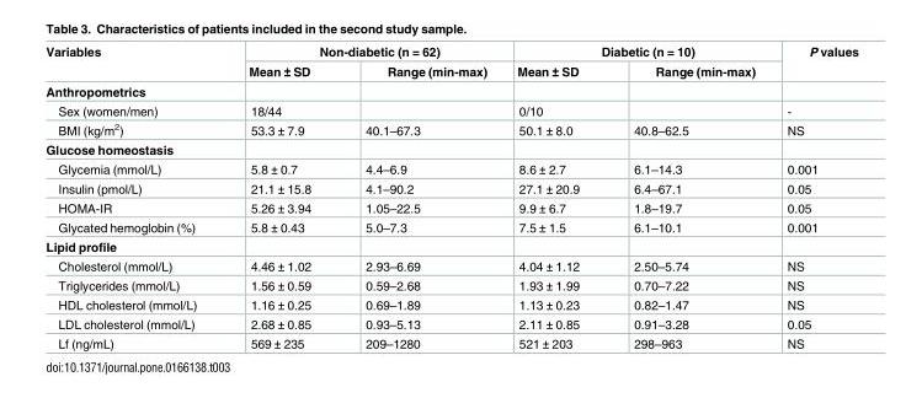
<table><thead><tr><td rowspan="2">Variables</td><td colspan="2">Non-diabetic (n = 62)</td><td colspan="2">Diabetic (n = 10)</td><td rowspan="2">P values</td></tr><tr><td>Mean ± SD</td><td>Range (min-max)</td><td>Mean ± SD</td><td>Range (min-max)</td></tr></thead><tbody><tr><td colspan="6">Anthropometrics</td></tr><tr><td>Sex (women/men)</td><td>18/44</td><td></td><td>0/10</td><td></td><td>-</td></tr><tr><td>BMI (kg/m<sup>2</sup>)</td><td>53.3 ± 7.9</td><td>40.1–67.3</td><td>50.1 ± 8.0</td><td>40.8–62.5</td><td>NS</td></tr><tr><td colspan="6">Glucose homeostasis</td></tr><tr><td>Glycemia (mmol/L)</td><td>5.8 ± 0.7</td><td>4.4–6.9</td><td>8.6 ± 2.7</td><td>6.1–14.3</td><td>0.001</td></tr><tr><td>Insulin (pmol/L)</td><td>21.1 ± 15.8</td><td>4.1–90.2</td><td>27.1 ± 20.9</td><td>6.4–67.1</td><td>0.05</td></tr><tr><td>HOMA-IR</td><td>5.26 ± 3.94</td><td>1.05–22.5</td><td>9.9 ± 6.7</td><td>1.8–19.7</td><td>0.05</td></tr><tr><td>Glycated hemoglobin (%)</td><td>5.8 ± 0.43</td><td>5.0–7.3</td><td>7.5 ± 1.5</td><td>6.1–10.1</td><td>0.001</td></tr><tr><td colspan="6">Lipid profile</td></tr><tr><td>Cholesterol (mmol/L)</td><td>4.46 ± 1.02</td><td>2.93–6.69</td><td>4.04 ± 1.12</td><td>2.50–5.74</td><td>NS</td></tr><tr><td>Triglycerides (mmol/L)</td><td>1.56 ± 0.59</td><td>0.59–2.68</td><td>1.93 ± 1.99</td><td>0.70–7.22</td><td>NS</td></tr><tr><td>HDL cholesterol (mmol/L)</td><td>1.16 ± 0.25</td><td>0.69–1.89</td><td>1.13 ± 0.23</td><td>0.82–1.47</td><td>NS</td></tr><tr><td>LDL cholesterol (mmol/L)</td><td>2.68 ± 0.85</td><td>0.93–5.13</td><td>2.11 ± 0.85</td><td>0.91–3.28</td><td>0.05</td></tr><tr><td>Lf (ng/mL)</td><td>569 ± 235</td><td>209–1280</td><td>521 ± 203</td><td>298–963</td><td>NS</td></tr></tbody></table>